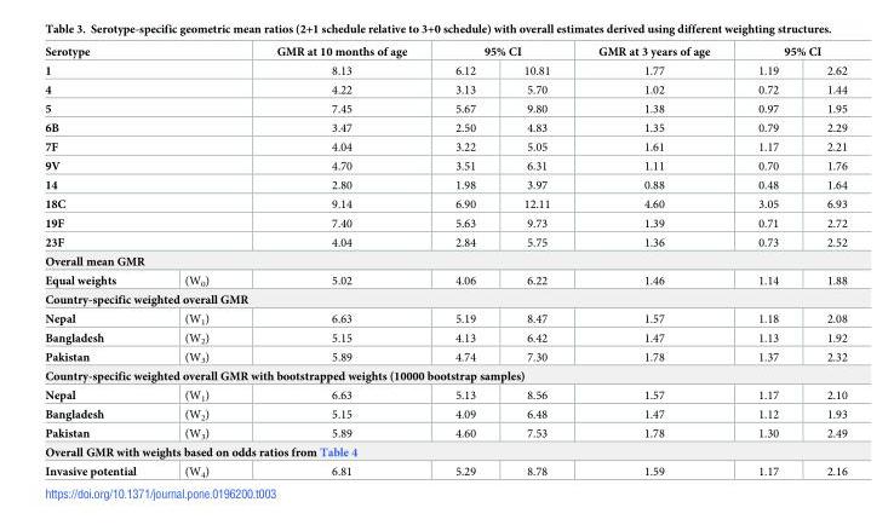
<table><thead><tr><td colspan="2">Serotype</td><td>GMR at 10 months of age</td><td colspan="2">95% CI</td><td>GMR at 3 years of age</td><td colspan="2">95% CI</td></tr></thead><tbody><tr><td colspan="2">1</td><td>8.13</td><td>6.12</td><td>10.81</td><td>1.77</td><td>1.19</td><td>2.62</td></tr><tr><td colspan="2">4</td><td>4.22</td><td>3.13</td><td>5.70</td><td>1.02</td><td>0.72</td><td>1.44</td></tr><tr><td colspan="2">5</td><td>7.45</td><td>5.67</td><td>9.80</td><td>1.38</td><td>0.97</td><td>1.95</td></tr><tr><td colspan="2">6B</td><td>3.47</td><td>2.50</td><td>4.83</td><td>1.35</td><td>0.79</td><td>2.29</td></tr><tr><td colspan="2">7F</td><td>4.04</td><td>3.22</td><td>5.05</td><td>1.61</td><td>1.17</td><td>2.21</td></tr><tr><td colspan="2">9V</td><td>4.70</td><td>3.51</td><td>6.31</td><td>1.11</td><td>0.70</td><td>1.76</td></tr><tr><td colspan="2">14</td><td>2.80</td><td>1.98</td><td>3.97</td><td>0.88</td><td>0.48</td><td>1.64</td></tr><tr><td colspan="2">18C</td><td>9.14</td><td>6.90</td><td>12.11</td><td>4.60</td><td>3.05</td><td>6.93</td></tr><tr><td colspan="2">19F</td><td>7.40</td><td>5.63</td><td>9.73</td><td>1.39</td><td>0.71</td><td>2.72</td></tr><tr><td colspan="2">23F</td><td>4.04</td><td>2.84</td><td>5.75</td><td>1.36</td><td>0.73</td><td>2.52</td></tr><tr><td colspan="8">Overall mean GMR</td></tr><tr><td>Equal weights</td><td>(W<sub>0</sub>)</td><td>5.02</td><td>4.06</td><td>6.22</td><td>1.46</td><td>1.14</td><td>1.88</td></tr><tr><td colspan="8">Country-specific weighted overall GMR</td></tr><tr><td>Nepal</td><td>(W<sub>1</sub>)</td><td>6.63</td><td>5.19</td><td>8.47</td><td>1.57</td><td>1.18</td><td>2.08</td></tr><tr><td>Bangladesh</td><td>(W<sub>2</sub>)</td><td>5.15</td><td>4.13</td><td>6.42</td><td>1.47</td><td>1.13</td><td>1.92</td></tr><tr><td>Pakistan</td><td>(W<sub>3</sub>)</td><td>5.89</td><td>4.74</td><td>7.30</td><td>1.78</td><td>1.37</td><td>2.32</td></tr><tr><td colspan="8">Country-specific weighted overall GMR with bootstrapped weights (10000 bootstrap samples)</td></tr><tr><td>Nepal</td><td>(W<sub>1</sub>)</td><td>6.63</td><td>5.13</td><td>8.56</td><td>1.57</td><td>1.17</td><td>2.10</td></tr><tr><td>Bangladesh</td><td>(W<sub>2</sub>)</td><td>5.15</td><td>4.09</td><td>6.48</td><td>1.47</td><td>1.12</td><td>1.93</td></tr><tr><td>Pakistan</td><td>(W<sub>3</sub>)</td><td>5.89</td><td>4.60</td><td>7.53</td><td>1.78</td><td>1.30</td><td>2.49</td></tr><tr><td colspan="8">Overall GMR with weights based on odds ratios from Table 4</td></tr><tr><td>Invasive potential</td><td>(W<sub>4</sub>)</td><td>6.81</td><td>5.29</td><td>8.78</td><td>1.59</td><td>1.17</td><td>2.16</td></tr></tbody></table>